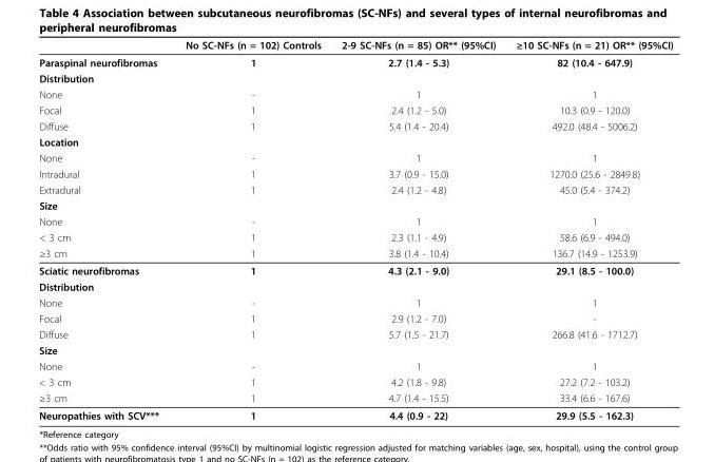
<table><thead><tr><td></td><td>No SC-NFs (n = 102) Controls</td><td>2-9 SC-NFs (n = 85) OR** (95%CI)</td><td>≥10 SC-NFs (n = 21) OR** (95%CI)</td></tr></thead><tbody><tr><td>Paraspinal neurofibromas</td><td>1</td><td>2.7 (1.4 - 5.3)</td><td>82 (10.4 - 647.9)</td></tr><tr><td colspan="4">Distribution</td></tr><tr><td>None</td><td>-</td><td>1</td><td>1</td></tr><tr><td>Focal</td><td>1</td><td>2.4 (1.2 - 5.0)</td><td>10.3 (0.9 - 120.0)</td></tr><tr><td>Diffuse</td><td>1</td><td>5.4 (1.4 - 20.4)</td><td>492.0 (48.4 - 5006.2)</td></tr><tr><td colspan="4">Location</td></tr><tr><td>None</td><td>-</td><td>1</td><td>1</td></tr><tr><td>Intradural</td><td>1</td><td>3.7 (0.9 - 15.0)</td><td>1270.0 (25.6 - 2849.8)</td></tr><tr><td>Extradural</td><td>1</td><td>2.4 (1.2 - 4.8)</td><td>45.0 (5.4 - 374.2)</td></tr><tr><td colspan="4">Size</td></tr><tr><td>None</td><td>-</td><td>1</td><td>1</td></tr><tr><td>&lt; 3 cm</td><td>1</td><td>2.3 (1.1 - 4.9)</td><td>58.6 (6.9 - 494.0)</td></tr><tr><td>≥3 cm</td><td>1</td><td>3.8 (1.4 - 10.4)</td><td>136.7 (14.9 - 1253.9)</td></tr><tr><td>Sciatic neurofibromas</td><td>1</td><td>4.3 (2.1 - 9.0)</td><td>29.1 (8.5 - 100.0)</td></tr><tr><td colspan="4">Distribution</td></tr><tr><td>None</td><td>-</td><td>1</td><td>1</td></tr><tr><td>Focal</td><td>1</td><td>2.9 (1.2 - 7.0)</td><td>-</td></tr><tr><td>Diffuse</td><td>1</td><td>5.7 (1.5 - 21.7)</td><td>266.8 (41.6 - 1712.7)</td></tr><tr><td colspan="4">Size</td></tr><tr><td>None</td><td>-</td><td>1</td><td>1</td></tr><tr><td>&lt; 3 cm</td><td>1</td><td>4.2 (1.8 - 9.8)</td><td>27.2 (7.2 - 103.2)</td></tr><tr><td>≥3 cm</td><td>1</td><td>4.7 (1.4 - 15.5)</td><td>33.4 (6.6 - 167.6)</td></tr><tr><td>Neuropathies with SCV***</td><td>1</td><td>4.4 (0.9 - 22)</td><td>29.9 (5.5 - 162.3)</td></tr></tbody></table>